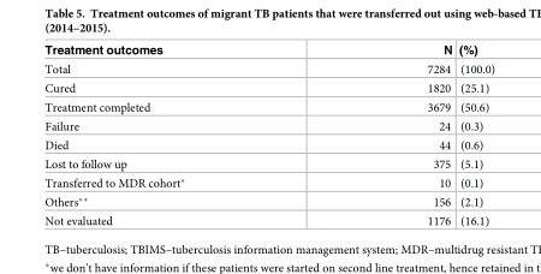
<table><thead><tr><td>Treatment outcomes</td><td>N</td><td>(%)</td></tr></thead><tbody><tr><td>Total</td><td>7284</td><td>(100.0)</td></tr><tr><td>Cured</td><td>1820</td><td>(25.1)</td></tr><tr><td>Treatment completed</td><td>3679</td><td>(50.6)</td></tr><tr><td>Failure</td><td>24</td><td>(0.3)</td></tr><tr><td>Died</td><td>44</td><td>(0.6)</td></tr><tr><td>Lost to follow up</td><td>375</td><td>(5.1)</td></tr><tr><td>Transferred to MDR cohort*</td><td>10</td><td>(0.1)</td></tr><tr><td>Others**</td><td>156</td><td>(2.1)</td></tr><tr><td>Not evaluated</td><td>1176</td><td>(16.1)</td></tr></tbody></table>